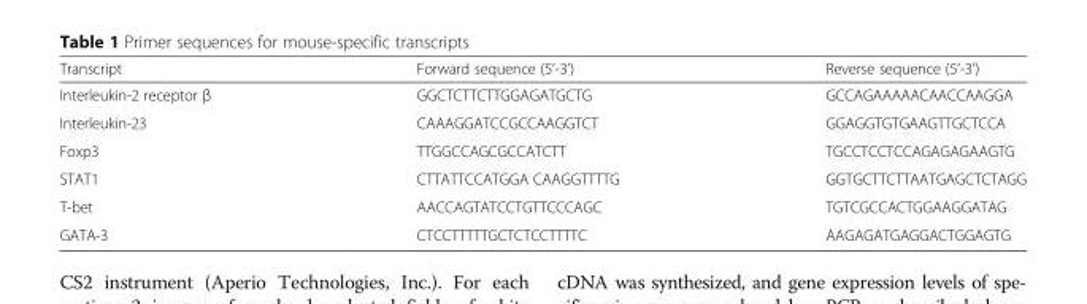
<table><thead><tr><td>Transcript</td><td>Forward sequence (5’-3’)</td><td>Reverse sequence (5’-3’)</td></tr></thead><tbody><tr><td>Interleukin-2 receptor β</td><td>GGCTCTTCTTGGAGATGCTG</td><td>GCCAGAAAAACAACCAAGGA</td></tr><tr><td>Interleukin-23</td><td>CAAAGGATCCGCCAAGGTCT</td><td>GGAGGTGTGAAGTTGCTCCA</td></tr><tr><td>Foxp3</td><td>TTGGCCAGCGCCATCTT</td><td>TGCCTCCTCCAGAGAGAAGTG</td></tr><tr><td>STAT1</td><td>CTTATTCCATGGA CAAGGTTTTG</td><td>GGTGCTTCTTAATGAGCTCTAGG</td></tr><tr><td>T-bet</td><td>AACCAGTATCCTGTTCCCAGC</td><td>TGTCGCCACTGGAAGGATAG</td></tr><tr><td>GATA-3</td><td>CTCCTTTTTGCTCTCCTTTTC</td><td>AAGAGATGAGGACTGGAGTG</td></tr></tbody></table>